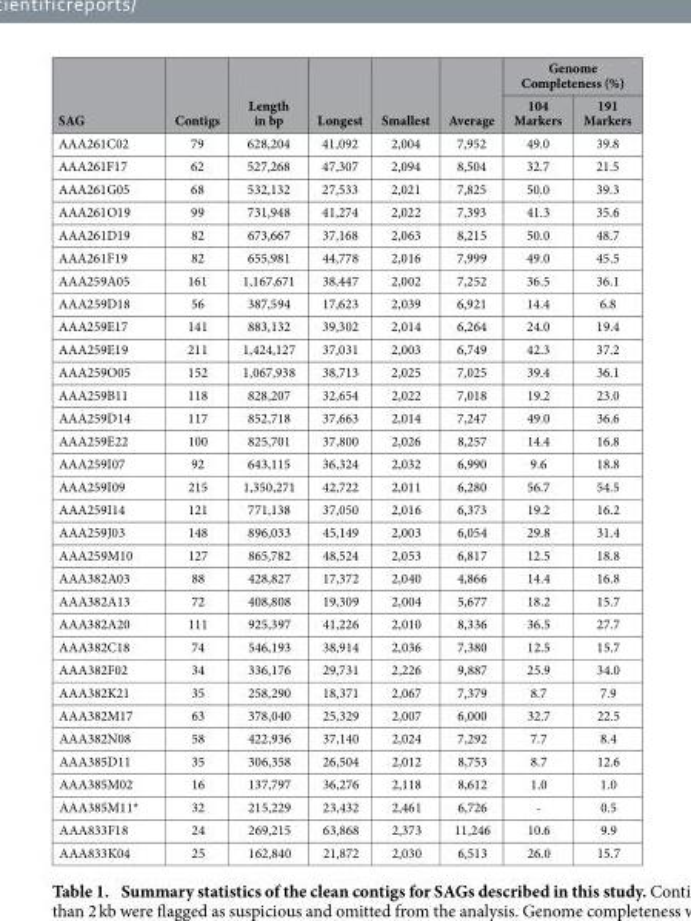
<table><thead><tr><td rowspan="2">SAG</td><td rowspan="2">Contigs</td><td rowspan="2">Length in bp</td><td rowspan="2">Longest</td><td rowspan="2">Smallest</td><td rowspan="2">Average</td><td colspan="2">Genome Completeness (%)</td></tr><tr><td>104 Markers</td><td>191 Markers</td></tr></thead><tbody><tr><td>AAA261C02</td><td>79</td><td>628,204</td><td>41,092</td><td>2,004</td><td>7,952</td><td>49.0</td><td>39.8</td></tr><tr><td>AAA261F17</td><td>62</td><td>527,268</td><td>47,307</td><td>2,094</td><td>8,504</td><td>32.7</td><td>21.5</td></tr><tr><td>AAA261G05</td><td>68</td><td>532,132</td><td>27,533</td><td>2,021</td><td>7,825</td><td>50.0</td><td>39.3</td></tr><tr><td>AAA261O19</td><td>99</td><td>731,948</td><td>41,274</td><td>2,022</td><td>7,393</td><td>41.3</td><td>35.6</td></tr><tr><td>AAA261D19</td><td>82</td><td>673,667</td><td>37,168</td><td>2,063</td><td>8,215</td><td>50.0</td><td>48.7</td></tr><tr><td>AAA261F19</td><td>82</td><td>655,981</td><td>44,778</td><td>2,016</td><td>7,999</td><td>49.0</td><td>45.5</td></tr><tr><td>AAA259A05</td><td>161</td><td>1,167,671</td><td>38,447</td><td>2,002</td><td>7,252</td><td>36.5</td><td>36.1</td></tr><tr><td>AAA259D18</td><td>56</td><td>387,594</td><td>17,623</td><td>2,039</td><td>6,921</td><td>14.4</td><td>6.8</td></tr><tr><td>AAA259E17</td><td>141</td><td>883,132</td><td>39,302</td><td>2,014</td><td>6,264</td><td>24.0</td><td>19.4</td></tr><tr><td>AAA259E19</td><td>211</td><td>1,424,127</td><td>37,031</td><td>2,003</td><td>6,749</td><td>42.3</td><td>37.2</td></tr><tr><td>AAA259O05</td><td>152</td><td>1,067,938</td><td>38,713</td><td>2,025</td><td>7,025</td><td>39.4</td><td>36.1</td></tr><tr><td>AAA259B11</td><td>118</td><td>828,207</td><td>32,654</td><td>2,022</td><td>7,018</td><td>19.2</td><td>23.0</td></tr><tr><td>AAA259D14</td><td>117</td><td>852,718</td><td>37,663</td><td>2,014</td><td>7,247</td><td>49.0</td><td>36.6</td></tr><tr><td>AAA259E22</td><td>100</td><td>825,701</td><td>37,800</td><td>2,026</td><td>8,257</td><td>14.4</td><td>16.8</td></tr><tr><td>AAA259I07</td><td>92</td><td>643,115</td><td>36,324</td><td>2,032</td><td>6,990</td><td>9.6</td><td>18.8</td></tr><tr><td>AAA259I09</td><td>215</td><td>1,350,271</td><td>42,722</td><td>2,011</td><td>6,280</td><td>56.7</td><td>54.5</td></tr><tr><td>AAA259I14</td><td>121</td><td>771,138</td><td>37,050</td><td>2,016</td><td>6,373</td><td>19.2</td><td>16.2</td></tr><tr><td>AAA259J03</td><td>148</td><td>896,033</td><td>45,149</td><td>2,003</td><td>6,054</td><td>29.8</td><td>31.4</td></tr><tr><td>AAA259M10</td><td>127</td><td>865,782</td><td>48,524</td><td>2,053</td><td>6,817</td><td>12.5</td><td>18.8</td></tr><tr><td>AAA382A03</td><td>88</td><td>428,827</td><td>17,372</td><td>2,040</td><td>4,866</td><td>14.4</td><td>16.8</td></tr><tr><td>AAA382A13</td><td>72</td><td>408,808</td><td>19,309</td><td>2,004</td><td>5,677</td><td>18.2</td><td>15.7</td></tr><tr><td>AAA382A20</td><td>111</td><td>925,397</td><td>41,226</td><td>2,010</td><td>8,336</td><td>36.5</td><td>27.7</td></tr><tr><td>AAA382C18</td><td>74</td><td>546,193</td><td>38,914</td><td>2,036</td><td>7,380</td><td>12.5</td><td>15.7</td></tr><tr><td>AAA382F02</td><td>34</td><td>336,176</td><td>29,731</td><td>2,226</td><td>9,887</td><td>25.9</td><td>34.0</td></tr><tr><td>AAA382K21</td><td>35</td><td>258,290</td><td>18,371</td><td>2,067</td><td>7,379</td><td>8.7</td><td>7.9</td></tr><tr><td>AAA382M17</td><td>63</td><td>378,040</td><td>25,329</td><td>2,007</td><td>6,000</td><td>32.7</td><td>22.5</td></tr><tr><td>AAA382N08</td><td>58</td><td>422,936</td><td>37,140</td><td>2,024</td><td>7,292</td><td>7.7</td><td>8.4</td></tr><tr><td>AAA385D11</td><td>35</td><td>306,358</td><td>26,504</td><td>2,012</td><td>8,753</td><td>8.7</td><td>12.6</td></tr><tr><td>AAA385M02</td><td>16</td><td>137,797</td><td>36,276</td><td>2,118</td><td>8,612</td><td>1.0</td><td>1.0</td></tr><tr><td>AAA385M11*</td><td>32</td><td>215,229</td><td>23,432</td><td>2,461</td><td>6,726</td><td>-</td><td>0.5</td></tr><tr><td>AAA833F18</td><td>24</td><td>269,215</td><td>63,868</td><td>2,373</td><td>11,246</td><td>10.6</td><td>9.9</td></tr><tr><td>AAA833K04</td><td>25</td><td>162,840</td><td>21,872</td><td>2,030</td><td>6,513</td><td>26.0</td><td>15.7</td></tr></tbody></table>